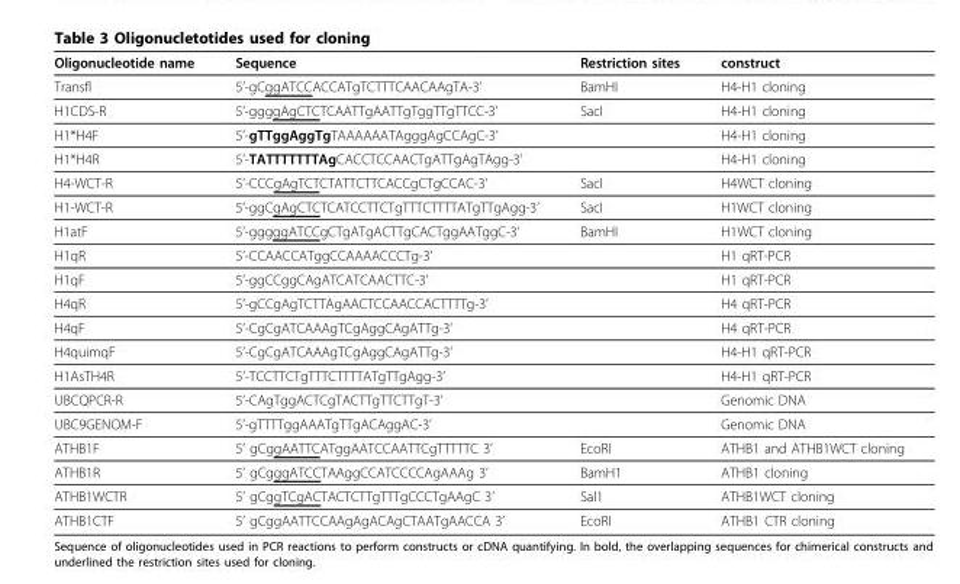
<table><thead><tr><td>Oligonucleotide name</td><td>Sequence</td><td>Restriction sites</td><td>construct</td></tr></thead><tbody><tr><td>Transfl</td><td>5’-gCggATCCACCATgTCTTTCAACAAgTA-3’</td><td>BamHI</td><td>H4-H1 cloning</td></tr><tr><td>H1CDS-R</td><td>5’-ggggAgCTCTCAATTgAATTgTggTTgTTCC-3’</td><td>SacI</td><td>H4-H1 cloning</td></tr><tr><td>H1*H4F</td><td>5’-gTTggAggTgTAAAAAATAgggAgCCAgC-3’</td><td></td><td>H4-H1 cloning</td></tr><tr><td>H1*H4R</td><td>5’-TATTTTTTTAgCACCTCCAACTgATTgAgTAgg-3’</td><td></td><td>H4-H1 cloning</td></tr><tr><td>H4-WCT-R</td><td>5’-CCCgAgTCTCTATTCTTCACCgCTgCCAC-3’</td><td>SacI</td><td>H4WCT cloning</td></tr><tr><td>H1-WCT-R</td><td>5’-ggCgAgCTCTCATCCTTCTgTTTCTTTTATgTTgAgg-3’</td><td>SacI</td><td>H1WCT cloning</td></tr><tr><td>H1atF</td><td>5’-gggggATCCgCTgATgACTTgCACTggAATggC-3’</td><td>BamHI</td><td>H1WCT cloning</td></tr><tr><td>H1qR</td><td>5’-CCAACCATggCCAAAACCCTg-3’</td><td></td><td>H1 qRT-PCR</td></tr><tr><td>H1qF</td><td>5’-ggCCggCAgATCATCAACTTC-3’</td><td></td><td>H1 qRT-PCR</td></tr><tr><td>H4qR</td><td>5’-gCCgAgTCTTAgAACTCCAACCACTTTTg-3’</td><td></td><td>H4 qRT-PCR</td></tr><tr><td>H4qF</td><td>5’-CgCgATCAAAgTCgAggCAgATTg-3’</td><td></td><td>H4 qRT-PCR</td></tr><tr><td>H4quimqF</td><td>5’-CgCgATCAAAgTCgAggCAgATTg-3’</td><td></td><td>H4-H1 qRT-PCR</td></tr><tr><td>H1AsTH4R</td><td>5’-TCCTTCTgTTTCTTTTATgTTgAgg-3’</td><td></td><td>H4-H1 qRT-PCR</td></tr><tr><td>UBCQPCR-R</td><td>5’-CAgTggACTCgTACTTgTTCTTgT-3’</td><td></td><td>Genomic DNA</td></tr><tr><td>UBC9GENOM-F</td><td>5’-gTTTTggAAATgTTgACAggAC-3’</td><td></td><td>Genomic DNA</td></tr><tr><td>ATHB1F</td><td>5’ gCggAATTCATggAATCCAATTCgTTTTTC 3’</td><td>EcoRI</td><td>ATHB1 and ATHB1WCT cloning</td></tr><tr><td>ATHB1R</td><td>5’ gCgggATCCTAAggCCATCCCCAgAAAg 3’</td><td>BamH1</td><td>ATHB1 cloning</td></tr><tr><td>ATHB1WCTR</td><td>5’ gCggTCgACTACTCTTgTTTgCCCTgAAgC 3’</td><td>Sal1</td><td>ATHB1WCT cloning</td></tr><tr><td>ATHB1CTF</td><td>5’ gCggAATTCCAAgAgACAgCTAATgAACCA 3’</td><td>EcoRI</td><td>ATHB1 CTR cloning</td></tr></tbody></table>